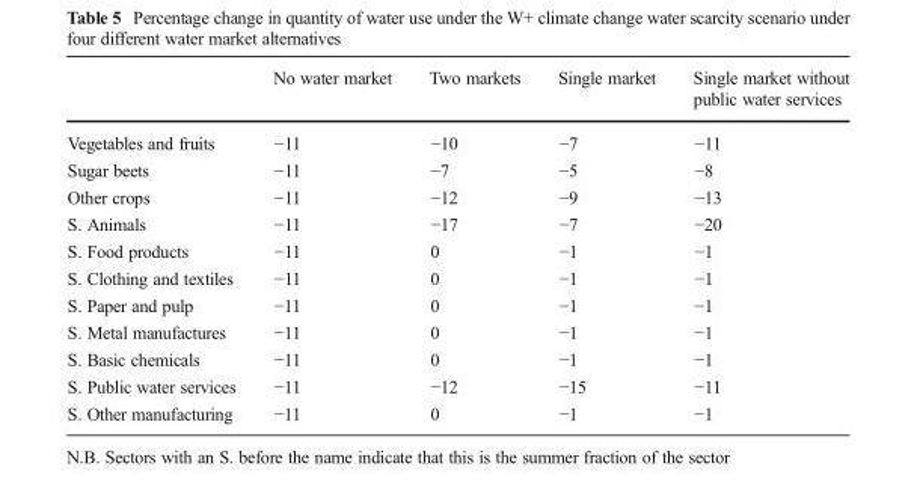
<table><thead><tr><td></td><td>No water market</td><td>Two markets</td><td>Single market</td><td>Single market without public water services</td></tr></thead><tbody><tr><td>Vegetables and fruits</td><td>−11</td><td>−10</td><td>−7</td><td>−11</td></tr><tr><td>Sugar beets</td><td>−11</td><td>−7</td><td>−5</td><td>−8</td></tr><tr><td>Other crops</td><td>−11</td><td>−12</td><td>−9</td><td>−13</td></tr><tr><td>S. Animals</td><td>−11</td><td>−17</td><td>−7</td><td>−20</td></tr><tr><td>S. Food products</td><td>−11</td><td>0</td><td>−1</td><td>−1</td></tr><tr><td>S. Clothing and textiles</td><td>−11</td><td>0</td><td>−1</td><td>−1</td></tr><tr><td>S. Paper and pulp</td><td>−11</td><td>0</td><td>−1</td><td>−1</td></tr><tr><td>S. Metal manufactures</td><td>−11</td><td>0</td><td>−1</td><td>−1</td></tr><tr><td>S. Basic chemicals</td><td>−11</td><td>0</td><td>−1</td><td>−1</td></tr><tr><td>S. Public water services</td><td>−11</td><td>−12</td><td>−15</td><td>−11</td></tr><tr><td>S. Other manufacturing</td><td>−11</td><td>0</td><td>−1</td><td>−1</td></tr></tbody></table>